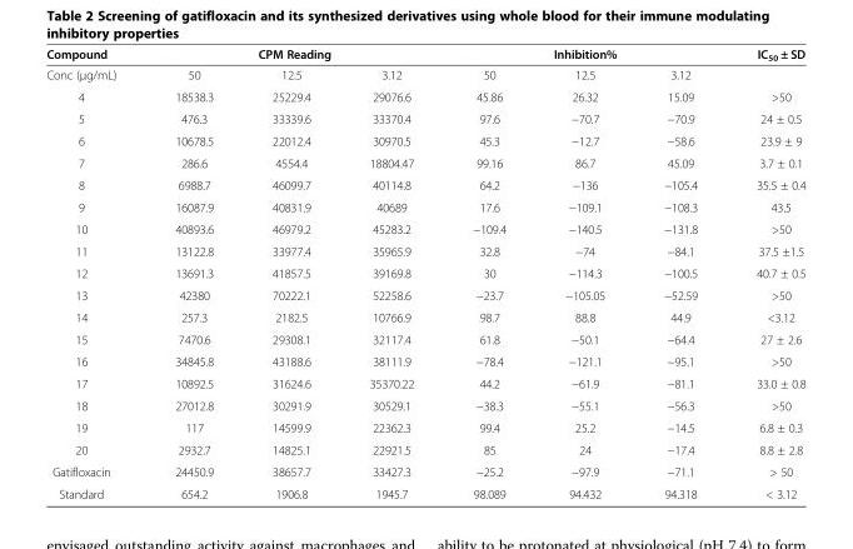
<table><thead><tr><td rowspan="2">Compound Conc (μg/mL)</td><td colspan="3">CPM Reading</td><td colspan="3">Inhibition%</td><td rowspan="2">IC<sub>50</sub> ± SD</td></tr><tr><td>50</td><td>12.5</td><td>3.12</td><td>50</td><td>12.5</td><td>3.12</td></tr></thead><tbody><tr><td>4</td><td>18538.3</td><td>25229.4</td><td>29076.6</td><td>45.86</td><td>26.32</td><td>15.09</td><td>&gt;50</td></tr><tr><td>5</td><td>476.3</td><td>33339.6</td><td>33370.4</td><td>97.6</td><td>−70.7</td><td>−70.9</td><td>24 ± 0.5</td></tr><tr><td>6</td><td>10678.5</td><td>22012.4</td><td>30970.5</td><td>45.3</td><td>−12.7</td><td>−58.6</td><td>23.9 ± 9</td></tr><tr><td>7</td><td>286.6</td><td>4554.4</td><td>18804.47</td><td>99.16</td><td>86.7</td><td>45.09</td><td>3.7 ± 0.1</td></tr><tr><td>8</td><td>6988.7</td><td>46099.7</td><td>40114.8</td><td>64.2</td><td>−136</td><td>−105.4</td><td>35.5 ± 0.4</td></tr><tr><td>9</td><td>16087.9</td><td>40831.9</td><td>40689</td><td>17.6</td><td>−109.1</td><td>−108.3</td><td>43.5</td></tr><tr><td>10</td><td>40893.6</td><td>46979.2</td><td>45283.2</td><td>−109.4</td><td>−140.5</td><td>−131.8</td><td>&gt;50</td></tr><tr><td>11</td><td>13122.8</td><td>33977.4</td><td>35965.9</td><td>32.8</td><td>−74</td><td>−84.1</td><td>37.5 ±1.5</td></tr><tr><td>12</td><td>13691.3</td><td>41857.5</td><td>39169.8</td><td>30</td><td>−114.3</td><td>−100.5</td><td>40.7 ± 0.5</td></tr><tr><td>13</td><td>42380</td><td>70222.1</td><td>52258.6</td><td>−23.7</td><td>−105.05</td><td>−52.59</td><td>&gt;50</td></tr><tr><td>14</td><td>257.3</td><td>2182.5</td><td>10766.9</td><td>98.7</td><td>88.8</td><td>44.9</td><td>&lt;3.12</td></tr><tr><td>15</td><td>7470.6</td><td>29308.1</td><td>32117.4</td><td>61.8</td><td>−50.1</td><td>−64.4</td><td>27 ± 2.6</td></tr><tr><td>16</td><td>34845.8</td><td>43188.6</td><td>38111.9</td><td>−78.4</td><td>−121.1</td><td>−95.1</td><td>&gt;50</td></tr><tr><td>17</td><td>10892.5</td><td>31624.6</td><td>35370.22</td><td>44.2</td><td>−61.9</td><td>−81.1</td><td>33.0 ± 0.8</td></tr><tr><td>18</td><td>27012.8</td><td>30291.9</td><td>30529.1</td><td>−38.3</td><td>−55.1</td><td>−56.3</td><td>&gt;50</td></tr><tr><td>19</td><td>117</td><td>14599.9</td><td>22362.3</td><td>99.4</td><td>25.2</td><td>−14.5</td><td>6.8 ± 0.3</td></tr><tr><td>20</td><td>2932.7</td><td>14825.1</td><td>22921.5</td><td>85</td><td>24</td><td>−17.4</td><td>8.8 ± 2.8</td></tr><tr><td>Gatifloxacin</td><td>24450.9</td><td>38657.7</td><td>33427.3</td><td>−25.2</td><td>−97.9</td><td>−71.1</td><td>&gt; 50</td></tr><tr><td>Standard</td><td>654.2</td><td>1906.8</td><td>1945.7</td><td>98.089</td><td>94.432</td><td>94.318</td><td>&lt; 3.12</td></tr></tbody></table>